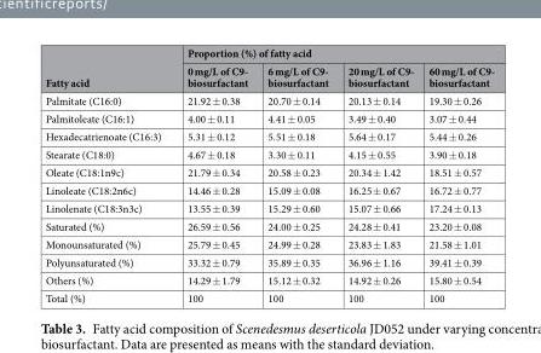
<table><thead><tr><td rowspan="2">Fatty acid</td><td colspan="4">Proportion (%) of fatty acid</td></tr><tr><td>0 mg/L of C9- biosurfactant</td><td>6 mg/L of C9- biosurfactant</td><td>20 mg/L of C9- biosurfactant</td><td>60 mg/L of C9- biosurfactant</td></tr></thead><tbody><tr><td>Palmitate (C16:0)</td><td>21.92 ± 0.38</td><td>20.70 ± 0.14</td><td>20.13 ± 0.14</td><td>19.30 ± 0.26</td></tr><tr><td>Palmitoleate (C16:1)</td><td>4.00 ± 0.11</td><td>4.41 ± 0.05</td><td>3.49 ± 0.40</td><td>3.07 ± 0.44</td></tr><tr><td>Hexadecatrienoate (C16:3)</td><td>5.31 ± 0.12</td><td>5.51 ± 0.18</td><td>5.64 ± 0.17</td><td>5.44 ± 0.26</td></tr><tr><td>Stearate (C18:0)</td><td>4.67 ± 0.18</td><td>3.30 ± 0.11</td><td>4.15 ± 0.55</td><td>3.90 ± 0.18</td></tr><tr><td>Oleate (C18:1n9c)</td><td>21.79 ± 0.34</td><td>20.58 ± 0.23</td><td>20.34 ± 1.42</td><td>18.51 ± 0.57</td></tr><tr><td>Linoleate (C18:2n6c)</td><td>14.46 ± 0.28</td><td>15.09 ± 0.08</td><td>16.25 ± 0.67</td><td>16.72 ± 0.77</td></tr><tr><td>Linolenate (C18:3n3c)</td><td>13.55 ± 0.39</td><td>15.29 ± 0.60</td><td>15.07 ± 0.66</td><td>17.24 ± 0.13</td></tr><tr><td>Saturated (%)</td><td>26.59 ± 0.56</td><td>24.00 ± 0.25</td><td>24.28 ± 0.41</td><td>23.20 ± 0.08</td></tr><tr><td>Monounsaturated (%)</td><td>25.79 ± 0.45</td><td>24.99 ± 0.28</td><td>23.83 ± 1.83</td><td>21.58 ± 1.01</td></tr><tr><td>Polyunsaturated (%)</td><td>33.32 ± 0.79</td><td>35.89 ± 0.35</td><td>36.96 ± 1.16</td><td>39.41 ± 0.39</td></tr><tr><td>Others (%)</td><td>14.29 ± 1.79</td><td>15.12 ± 0.32</td><td>14.92 ± 0.26</td><td>15.80 ± 0.54</td></tr><tr><td>Total (%)</td><td>100</td><td>100</td><td>100</td><td>100</td></tr></tbody></table>